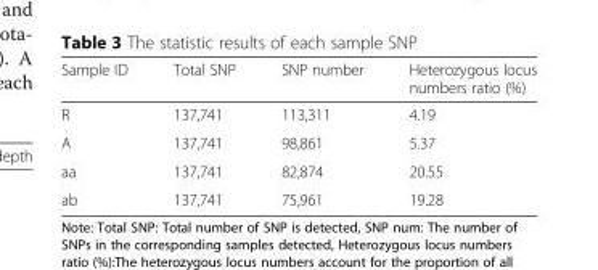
<table><thead><tr><td>Sample ID</td><td>Total SNP</td><td>SNP number</td><td>Heterozygous locus numbers ratio (%)</td></tr></thead><tbody><tr><td>R</td><td>137,741</td><td>113,311</td><td>4.19</td></tr><tr><td>A</td><td>137,741</td><td>98,861</td><td>5.37</td></tr><tr><td>aa</td><td>137,741</td><td>82,874</td><td>20.55</td></tr><tr><td>ab</td><td>137,741</td><td>75,961</td><td>19.28</td></tr></tbody></table>